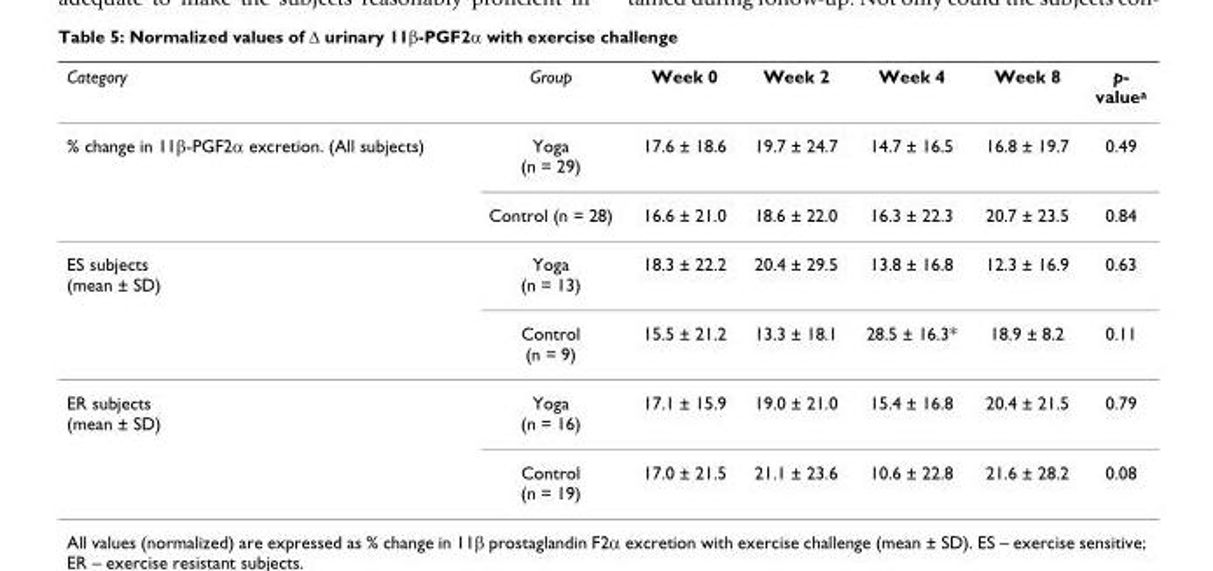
<table><thead><tr><td>Category</td><td>Group</td><td>Week 0</td><td>Week 2</td><td>Week 4</td><td>Week 8</td><td>p- value<sup>a</sup></td></tr></thead><tbody><tr><td rowspan="2">% change in 11β-PGF2α excretion. (All subjects)</td><td>Yoga (n = 29)</td><td>17.6 ± 18.6</td><td>19.7 ± 24.7</td><td>14.7 ± 16.5</td><td>16.8 ± 19.7</td><td>0.49</td></tr><tr><td>Control (n = 28)</td><td>16.6 ± 21.0</td><td>18.6 ± 22.0</td><td>16.3 ± 22.3</td><td>20.7 ± 23.5</td><td>0.84</td></tr><tr><td rowspan="2">ES subjects (mean ± SD)</td><td>Yoga (n = 13)</td><td>18.3 ± 22.2</td><td>20.4 ± 29.5</td><td>13.8 ± 16.8</td><td>12.3 ± 16.9</td><td>0.63</td></tr><tr><td>Control (n = 9)</td><td>15.5 ± 21.2</td><td>13.3 ± 18.1</td><td>28.5 ± 16.3*</td><td>18.9 ± 8.2</td><td>0.11</td></tr><tr><td rowspan="2">ER subjects (mean ± SD)</td><td>Yoga (n = 16)</td><td>17.1 ± 15.9</td><td>19.0 ± 21.0</td><td>15.4 ± 16.8</td><td>20.4 ± 21.5</td><td>0.79</td></tr><tr><td>Control (n = 19)</td><td>17.0 ± 21.5</td><td>21.1 ± 23.6</td><td>10.6 ± 22.8</td><td>21.6 ± 28.2</td><td>0.08</td></tr></tbody></table>